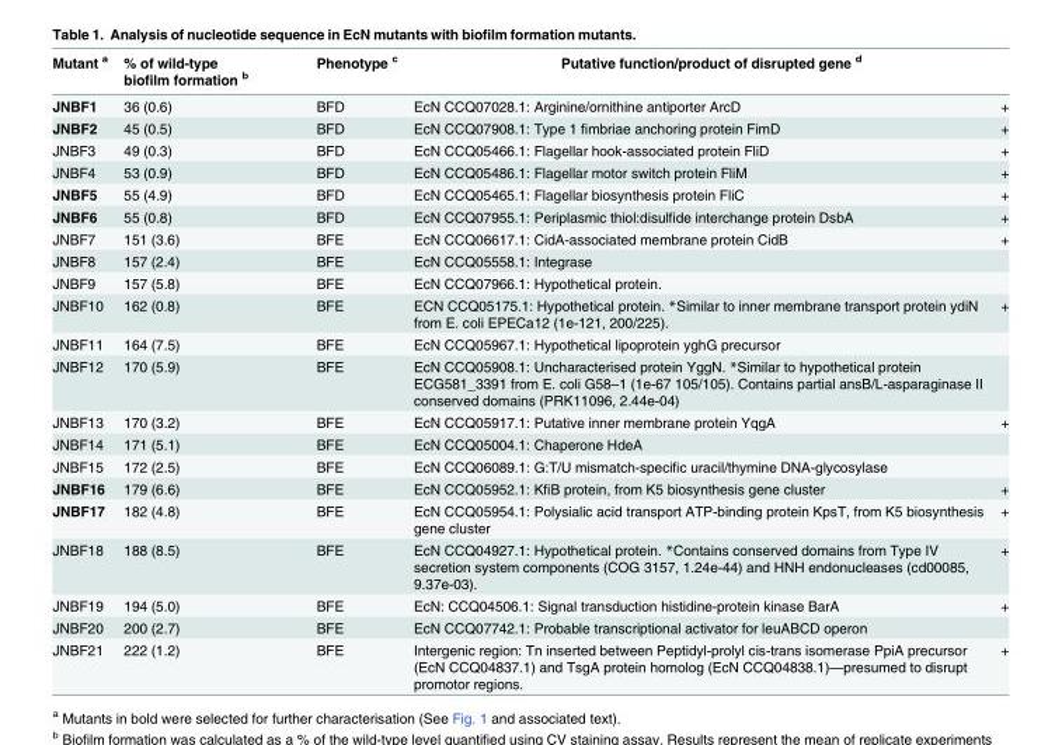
<table><thead><tr><td rowspan="2">Mutant <sup>a</sup> JNBF1</td><td rowspan="2">% of wild-type biofilm formation <sup>b</sup> 36 (0.6)</td><td rowspan="2">Phenotype <sup>c</sup> BFD</td><td colspan="2">Putative function/product of disrupted gene <sup>d</sup></td></tr><tr><td>EcN CCQ07028.1: Arginine/ornithine antiporter ArcD</td><td>+</td></tr></thead><tbody><tr><td>JNBF2</td><td>45 (0.5)</td><td>BFD</td><td>EcN CCQ07908.1: Type 1 fimbriae anchoring protein FimD</td><td>+</td></tr><tr><td>JNBF3</td><td>49 (0.3)</td><td>BFD</td><td>EcN CCQ05466.1: Flagellar hook-associated protein FliD</td><td>+</td></tr><tr><td>JNBF4</td><td>53 (0.9)</td><td>BFD</td><td>EcN CCQ05486.1: Flagellar motor switch protein FliM</td><td>+</td></tr><tr><td>JNBF5</td><td>55 (4.9)</td><td>BFD</td><td>EcN CCQ05465.1: Flagellar biosynthesis protein FliC</td><td>+</td></tr><tr><td>JNBF6</td><td>55 (0.8)</td><td>BFD</td><td>EcN CCQ07955.1: Periplasmic thiol:disulfide interchange protein DsbA</td><td>+</td></tr><tr><td>JNBF7</td><td>151 (3.6)</td><td>BFE</td><td>EcN CCQ06617.1: CidA-associated membrane protein CidB</td><td>+</td></tr><tr><td>JNBF8</td><td>157 (2.4)</td><td>BFE</td><td>EcN CCQ05558.1: Integrase</td><td></td></tr><tr><td>JNBF9</td><td>157 (5.8)</td><td>BFE</td><td>EcN CCQ07966.1: Hypothetical protein.</td><td></td></tr><tr><td>JNBF10</td><td>162 (0.8)</td><td>BFE</td><td>ECN CCQ05175.1: Hypothetical protein. *Similar to inner membrane transport protein ydiN from E. coli EPECa12 (1e-121, 200/225).</td><td>+</td></tr><tr><td>JNBF11</td><td>164 (7.5)</td><td>BFE</td><td>EcN CCQ05967.1: Hypothetical lipoprotein yghG precursor</td><td></td></tr><tr><td>JNBF12</td><td>170 (5.9)</td><td>BFE</td><td>EcN CCQ05908.1: Uncharacterised protein YggN. *Similar to hypothetical protein ECG581_3391 from E. coli G58–1 (1e-67 105/105). Contains partial ansB/L-asparaginase II conserved domains (PRK11096, 2.44e-04)</td><td></td></tr><tr><td>JNBF13</td><td>170 (3.2)</td><td>BFE</td><td>EcN CCQ05917.1: Putative inner membrane protein YqgA</td><td>+</td></tr><tr><td>JNBF14</td><td>171 (5.1)</td><td>BFE</td><td>EcN CCQ05004.1: Chaperone HdeA</td><td></td></tr><tr><td>JNBF15</td><td>172 (2.5)</td><td>BFE</td><td>EcN CCQ06089.1: G:T/U mismatch-specific uracil/thymine DNA-glycosylase</td><td></td></tr><tr><td>JNBF16</td><td>179 (6.6)</td><td>BFE</td><td>EcN CCQ05952.1: KfiB protein, from K5 biosynthesis gene cluster</td><td>+</td></tr><tr><td>JNBF17</td><td>182 (4.8)</td><td>BFE</td><td>EcN CCQ05954.1: Polysialic acid transport ATP-binding protein KpsT, from K5 biosynthesis gene cluster</td><td>+</td></tr><tr><td>JNBF18</td><td>188 (8.5)</td><td>BFE</td><td>EcN CCQ04927.1: Hypothetical protein. *Contains conserved domains from Type IV secretion system components (COG 3157, 1.24e-44) and HNH endonucleases (cd00085, 9.37e-03).</td><td>+</td></tr><tr><td>JNBF19</td><td>194 (5.0)</td><td>BFE</td><td>EcN: CCQ04506.1: Signal transduction histidine-protein kinase BarA</td><td>+</td></tr><tr><td>JNBF20</td><td>200 (2.7)</td><td>BFE</td><td>EcN CCQ07742.1: Probable transcriptional activator for leuABCD operon</td><td></td></tr><tr><td>JNBF21</td><td>222 (1.2)</td><td>BFE</td><td>Intergenic region: Tn inserted between Peptidyl-prolyl cis-trans isomerase PpiA precursor (EcN CCQ04837.1) and TsgA protein homolog (EcN CCQ04838.1)—presumed to disrupt promotor regions.</td><td>+</td></tr></tbody></table>